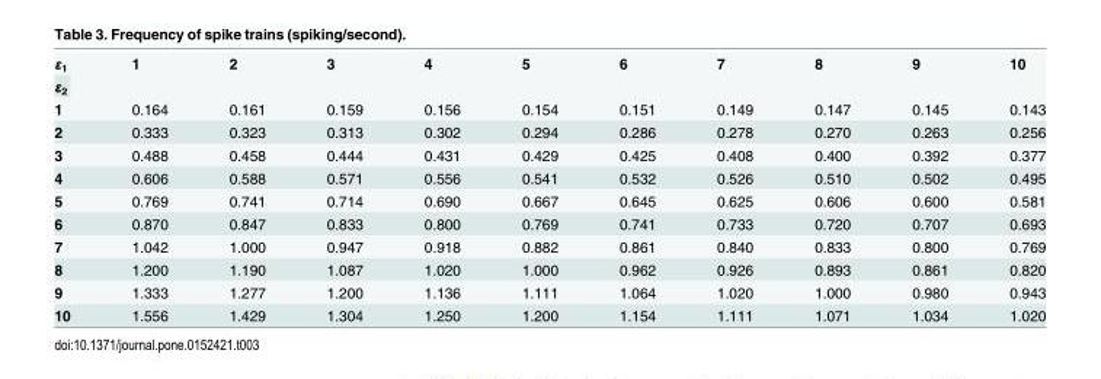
<table><tbody><tr><td>ε<sub>1</sub></td><td rowspan="2">1</td><td rowspan="2">2</td><td rowspan="2">3</td><td rowspan="2">4</td><td rowspan="2">5</td><td rowspan="2">6</td><td rowspan="2">7</td><td rowspan="2">8</td><td rowspan="2">9</td><td rowspan="2">10</td></tr><tr><td>ε<sub>2</sub></td></tr><tr><td>1</td><td>0.164</td><td>0.161</td><td>0.159</td><td>0.156</td><td>0.154</td><td>0.151</td><td>0.149</td><td>0.147</td><td>0.145</td><td>0.143</td></tr><tr><td>2</td><td>0.333</td><td>0.323</td><td>0.313</td><td>0.302</td><td>0.294</td><td>0.286</td><td>0.278</td><td>0.270</td><td>0.263</td><td>0.256</td></tr><tr><td>3</td><td>0.488</td><td>0.458</td><td>0.444</td><td>0.431</td><td>0.429</td><td>0.425</td><td>0.408</td><td>0.400</td><td>0.392</td><td>0.377</td></tr><tr><td>4</td><td>0.606</td><td>0.588</td><td>0.571</td><td>0.556</td><td>0.541</td><td>0.532</td><td>0.526</td><td>0.510</td><td>0.502</td><td>0.495</td></tr><tr><td>5</td><td>0.769</td><td>0.741</td><td>0.714</td><td>0.690</td><td>0.667</td><td>0.645</td><td>0.625</td><td>0.606</td><td>0.600</td><td>0.581</td></tr><tr><td>6</td><td>0.870</td><td>0.847</td><td>0.833</td><td>0.800</td><td>0.769</td><td>0.741</td><td>0.733</td><td>0.720</td><td>0.707</td><td>0.693</td></tr><tr><td>7</td><td>1.042</td><td>1.000</td><td>0.947</td><td>0.918</td><td>0.882</td><td>0.861</td><td>0.840</td><td>0.833</td><td>0.800</td><td>0.769</td></tr><tr><td>8</td><td>1.200</td><td>1.190</td><td>1.087</td><td>1.020</td><td>1.000</td><td>0.962</td><td>0.926</td><td>0.893</td><td>0.861</td><td>0.820</td></tr><tr><td>9</td><td>1.333</td><td>1.277</td><td>1.200</td><td>1.136</td><td>1.111</td><td>1.064</td><td>1.020</td><td>1.000</td><td>0.980</td><td>0.943</td></tr><tr><td>10</td><td>1.556</td><td>1.429</td><td>1.304</td><td>1.250</td><td>1.200</td><td>1.154</td><td>1.111</td><td>1.071</td><td>1.034</td><td>1.020</td></tr></tbody></table>